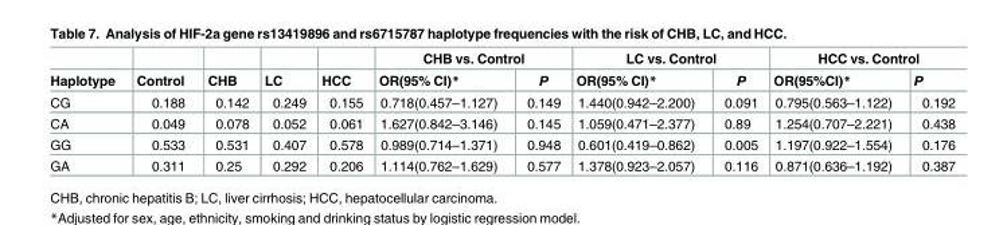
<table><thead><tr><td rowspan="2">Haplotype</td><td rowspan="2">Control</td><td rowspan="2">CHB</td><td rowspan="2">LC</td><td rowspan="2">HCC</td><td colspan="2">CHB vs. Control</td><td colspan="2">LC vs. Control</td><td colspan="2">HCC vs. Control</td></tr><tr><td>OR(95% CI)*</td><td>P</td><td>OR(95% CI)*</td><td>P</td><td>OR(95%CI)*</td><td>P</td></tr></thead><tbody><tr><td>CG</td><td>0.188</td><td>0.142</td><td>0.249</td><td>0.155</td><td>0.718(0.457–1.127)</td><td>0.149</td><td>1.440(0.942–2.200)</td><td>0.091</td><td>0.795(0.563–1.122)</td><td>0.192</td></tr><tr><td>CA</td><td>0.049</td><td>0.078</td><td>0.052</td><td>0.061</td><td>1.627(0.842–3.146)</td><td>0.145</td><td>1.059(0.471–2.377)</td><td>0.89</td><td>1.254(0.707–2.221)</td><td>0.438</td></tr><tr><td>GG</td><td>0.533</td><td>0.531</td><td>0.407</td><td>0.578</td><td>0.989(0.714–1.371)</td><td>0.948</td><td>0.601(0.419–0.862)</td><td>0.005</td><td>1.197(0.922–1.554)</td><td>0.176</td></tr><tr><td>GA</td><td>0.311</td><td>0.25</td><td>0.292</td><td>0.206</td><td>1.114(0.762–1.629)</td><td>0.577</td><td>1.378(0.923–2.057)</td><td>0.116</td><td>0.871(0.636–1.192)</td><td>0.387</td></tr></tbody></table>